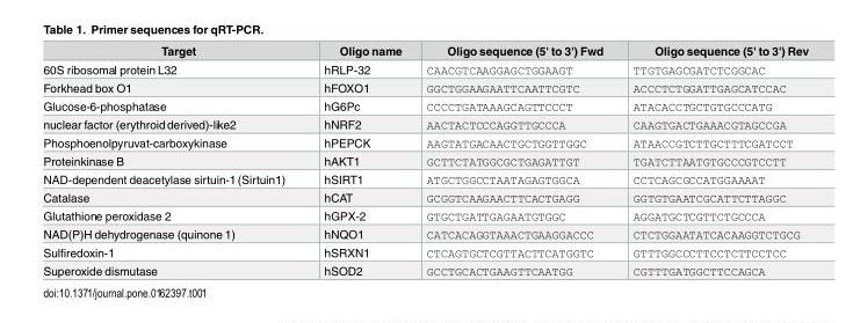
<table><thead><tr><td>Target</td><td>Oligo name</td><td>Oligo sequence (5&#x27; to 3&#x27;) Fwd</td><td>Oligo sequence (5&#x27; to 3&#x27;) Rev</td></tr></thead><tbody><tr><td>60S ribosomal protein L32</td><td>hRLP-32</td><td>CAACGTCAAGGAGCTGGAAGT</td><td>TTGTGAGCGATCTCGGCAC</td></tr><tr><td>Forkhead box O1</td><td>hFOXO1</td><td>GGCTGGAAGAATTCAATTCGTC</td><td>ACCCTCTGGATTGAGCATCCAC</td></tr><tr><td>Glucose-6-phosphatase</td><td>hG6Pc</td><td>CCCCTGATAAAGCAGTTCCCT</td><td>ATACACCTGCTGTGCCCATG</td></tr><tr><td>nuclear factor (erythroidderived)-like2</td><td>hNRF2</td><td>AACTACTCCCAGGTTGCCCA</td><td>CAAGTGACTGAAACGTAGCCGA</td></tr><tr><td>Phosphoenolpyruvat-carboxykinase</td><td>hPEPCK</td><td>AAGTATGACAACTGCTGGTTGGC</td><td>ATAACCGTCTTGCTTTCGATCCT</td></tr><tr><td>Proteinkinase B</td><td>hAKT1</td><td>GCTTCTATGGCGCTGAGATTGT</td><td>TGATCTTAATGTGCCCGTCCTT</td></tr><tr><td>NAD-dependent deacetylase sirtuin-1(Sirtuin1)</td><td>hSIRT1</td><td>ATGCTGGCCTAATAGAGTGGCA</td><td>CCTCAGCGCCATGGAAAAT</td></tr><tr><td>Catalase</td><td>hCAT</td><td>GCGGTCAAGAACTTCACTGAGG</td><td>GGTGTGAATCGCATTCTTAGGC</td></tr><tr><td>Glutathione peroxidase 2</td><td>hGPX-2</td><td>GTGCTGATTGAGAATGTGGC</td><td>AGGATGCTCGTTCTGCCCA</td></tr><tr><td>NAD(P)H dehydrogenase (quinone 1)</td><td>hNQO1</td><td>CATCACAGGTAAACTGAAGGACCC</td><td>CTCTGGAATATCACAAGGTCTGCG</td></tr><tr><td>Sulfiredoxin-1</td><td>hSRXN1</td><td>CTCAGTGCTCGTTACTTCATGGTC</td><td>GTTTGGCCCTTCCTCTTCCTCC</td></tr><tr><td>Superoxide dismutase</td><td>hSOD2</td><td>GCCTGCACTGAAGTTCAATGG</td><td>CGTTTGATGGCTTCCAGCA</td></tr></tbody></table>